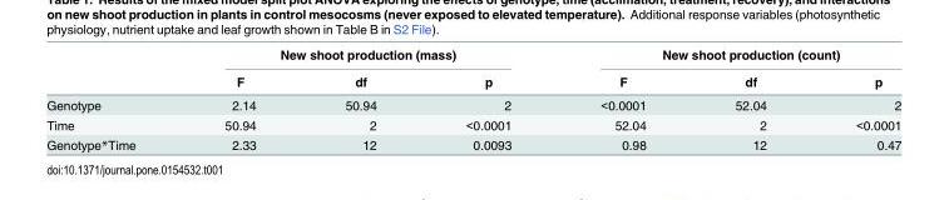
<table><thead><tr><td rowspan="2"></td><td colspan="3">New shoot production (mass)</td><td colspan="3">New shoot production (count)</td></tr><tr><td>F</td><td>df</td><td>p</td><td>F</td><td>df</td><td>p</td></tr></thead><tbody><tr><td>Genotype</td><td>2.14</td><td>50.94</td><td>2</td><td>&lt;0.0001</td><td>52.04</td><td>2</td></tr><tr><td>Time</td><td>50.94</td><td>2</td><td>&lt;0.0001</td><td>52.04</td><td>2</td><td>&lt;0.0001</td></tr><tr><td>Genotype*Time</td><td>2.33</td><td>12</td><td>0.0093</td><td>0.98</td><td>12</td><td>0.47</td></tr></tbody></table>